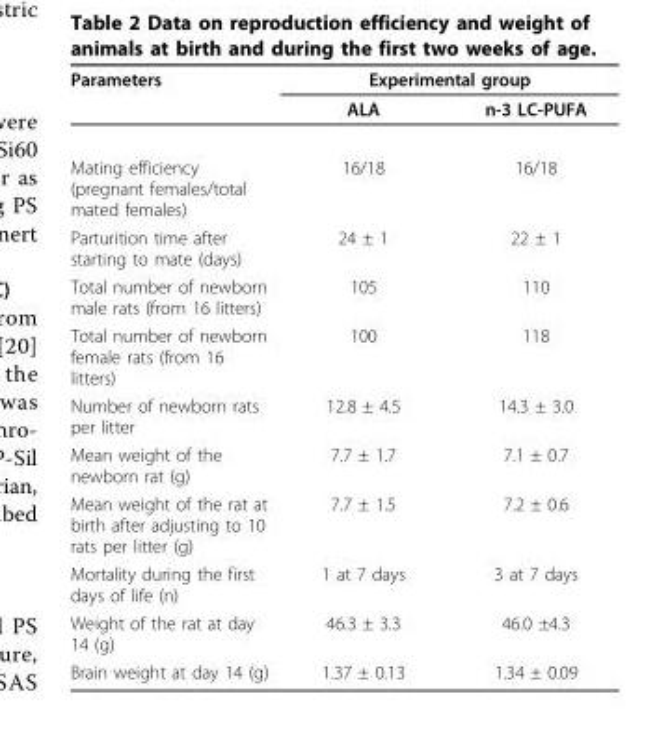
<table><thead><tr><td rowspan="2">Parameters</td><td colspan="2">Experimental group</td></tr><tr><td>ALA</td><td>n-3 LC-PUFA</td></tr></thead><tbody><tr><td>Mating efficiency (pregnant females/total mated females)</td><td>16/18</td><td>16/18</td></tr><tr><td>Parturition time after starting to mate (days)</td><td>24 ± 1</td><td>22 ± 1</td></tr><tr><td>Total number of newborn male rats (from 16 litters)</td><td>105</td><td>110</td></tr><tr><td>Total number of newborn female rats (from 16 litters)</td><td>100</td><td>118</td></tr><tr><td>Number of newborn rats per litter</td><td>12.8 ± 4.5</td><td>14.3 ± 3.0</td></tr><tr><td>Mean weight of the newborn rat (g)</td><td>7.7 ± 1.7</td><td>7.1 ± 0.7</td></tr><tr><td>Mean weight of the rat at birth after adjusting to 10 rats per litter (g)</td><td>7.7 ± 1.5</td><td>7.2 ± 0.6</td></tr><tr><td>Mortality during the first days of life (n)</td><td>1 at 7 days</td><td>3 at 7 days</td></tr><tr><td>Weight of the rat at day 14 (g)</td><td>46.3 ± 3.3</td><td>46.0 ±4.3</td></tr><tr><td>Brain weight at day 14 (g)</td><td>1.37 ± 0.13</td><td>1.34 ± 0.09</td></tr></tbody></table>